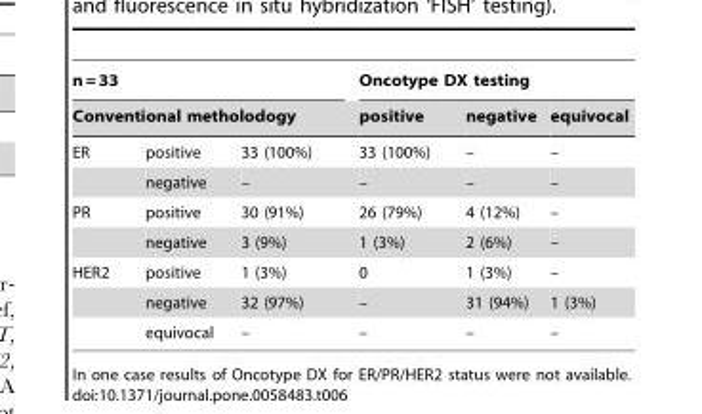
<table><thead><tr><td rowspan="2" colspan="3">n = 33 Conventional metholodogy</td><td colspan="3">Oncotype DX testing</td></tr><tr><td rowspan="2">positive 33 (100%)</td><td rowspan="2">negative –</td><td rowspan="2">equivocal –</td></tr><tr><td>ER</td><td>positive</td><td>33 (100%)</td></tr></thead><tbody><tr><td></td><td>negative</td><td>–</td><td>–</td><td>–</td><td>–</td></tr><tr><td rowspan="2">PR</td><td>positive</td><td>30 (91%)</td><td>26 (79%)</td><td>4 (12%)</td><td>–</td></tr><tr><td>negative</td><td>3 (9%)</td><td>1 (3%)</td><td>2 (6%)</td><td>–</td></tr><tr><td rowspan="3">HER2</td><td>positive</td><td>1 (3%)</td><td>0</td><td>1 (3%)</td><td>–</td></tr><tr><td>negative</td><td>32 (97%)</td><td>–</td><td>31 (94%)</td><td>1 (3%)</td></tr><tr><td>equivocal</td><td>–</td><td>–</td><td>–</td><td>–</td></tr></tbody></table>